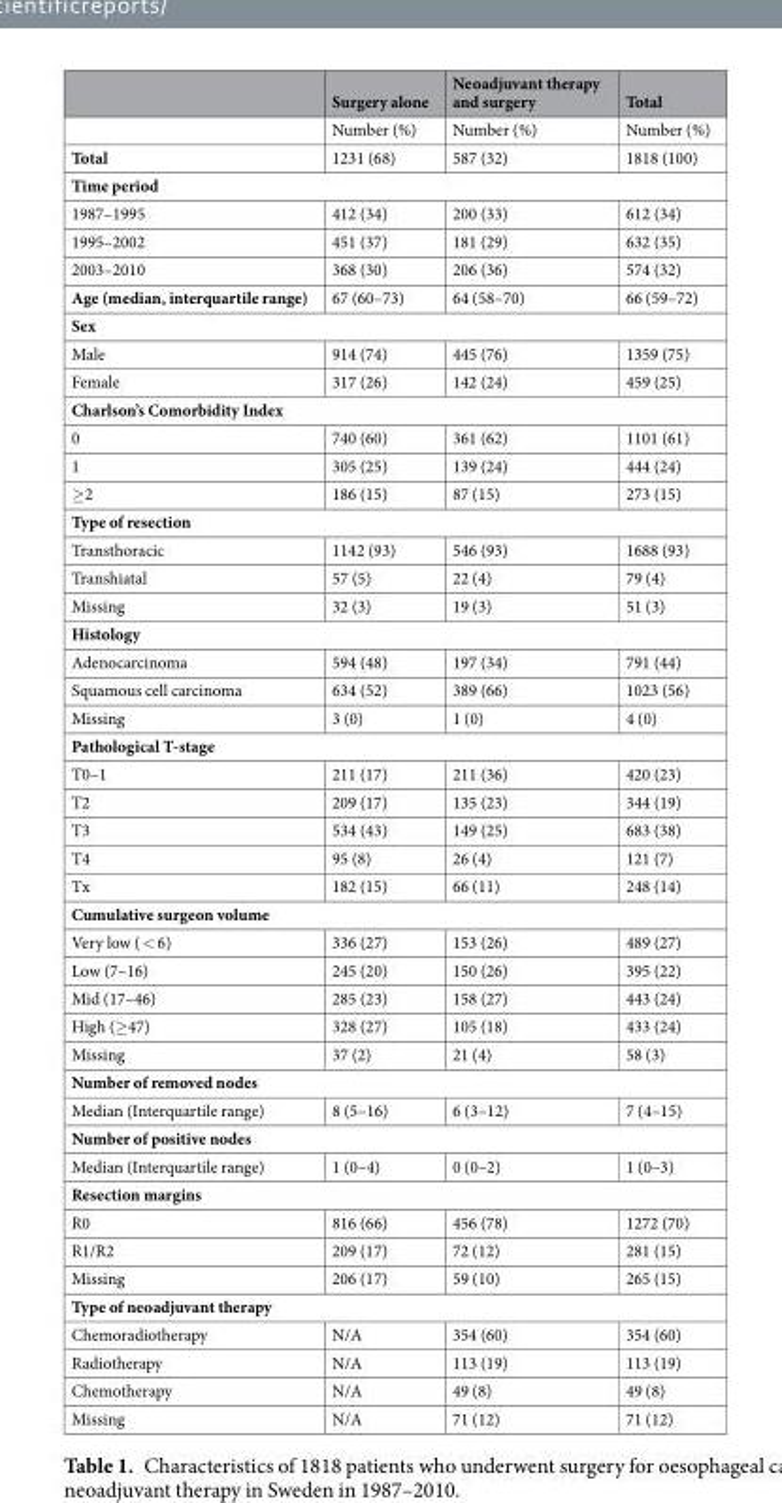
<table><thead><tr><td></td><td>Surgery alone</td><td>Neoadjuvant therapy and surgery</td><td>Total</td></tr></thead><tbody><tr><td></td><td>Number (%)</td><td>Number (%)</td><td>Number (%)</td></tr><tr><td>Total</td><td>1231 (68)</td><td>587 (32)</td><td>1818 (100)</td></tr><tr><td colspan="4">Time period</td></tr><tr><td>1987–1995</td><td>412 (34)</td><td>200 (33)</td><td>612 (34)</td></tr><tr><td>1995–2002</td><td>451 (37)</td><td>181 (29)</td><td>632 (35)</td></tr><tr><td>2003–2010</td><td>368 (30)</td><td>206 (36)</td><td>574 (32)</td></tr><tr><td>Age (median, interquartile range)</td><td>67 (60–73)</td><td>64 (58–70)</td><td>66 (59–72)</td></tr><tr><td colspan="4">Sex</td></tr><tr><td>Male</td><td>914 (74)</td><td>445 (76)</td><td>1359 (75)</td></tr><tr><td>Female</td><td>317 (26)</td><td>142 (24)</td><td>459 (25)</td></tr><tr><td colspan="4">Charlson’s Comorbidity Index</td></tr><tr><td>0</td><td>740 (60)</td><td>361 (62)</td><td>1101 (61)</td></tr><tr><td>1</td><td>305 (25)</td><td>139 (24)</td><td>444 (24)</td></tr><tr><td>≥2</td><td>186 (15)</td><td>87 (15)</td><td>273 (15)</td></tr><tr><td colspan="4">Type of resection</td></tr><tr><td>Transthoracic</td><td>1142 (93)</td><td>546 (93)</td><td>1688 (93)</td></tr><tr><td>Transhiatal</td><td>57 (5)</td><td>22 (4)</td><td>79 (4)</td></tr><tr><td>Missing</td><td>32 (3)</td><td>19 (3)</td><td>51 (3)</td></tr><tr><td colspan="4">Histology</td></tr><tr><td>Adenocarcinoma</td><td>594 (48)</td><td>197 (34)</td><td>791 (44)</td></tr><tr><td>Squamous cell carcinoma</td><td>634 (52)</td><td>389 (66)</td><td>1023 (56)</td></tr><tr><td>Missing</td><td>3 (0)</td><td>1 (0)</td><td>4 (0)</td></tr><tr><td colspan="4">Pathological T-stage</td></tr><tr><td>T0–1</td><td>211 (17)</td><td>211 (36)</td><td>420 (23)</td></tr><tr><td>T2</td><td>209 (17)</td><td>135 (23)</td><td>344 (19)</td></tr><tr><td>T3</td><td>534 (43)</td><td>149 (25)</td><td>683 (38)</td></tr><tr><td>T4</td><td>95 (8)</td><td>26 (4)</td><td>121 (7)</td></tr><tr><td>Tx</td><td>182 (15)</td><td>66 (11)</td><td>248 (14)</td></tr><tr><td colspan="4">Cumulative surgeon volume</td></tr><tr><td>Very low ( &lt; 6)</td><td>336 (27)</td><td>153 (26)</td><td>489 (27)</td></tr><tr><td>Low (7–16)</td><td>245 (20)</td><td>150 (26)</td><td>395 (22)</td></tr><tr><td>Mid (17–46)</td><td>285 (23)</td><td>158 (27)</td><td>443 (24)</td></tr><tr><td>High (≥47)</td><td>328 (27)</td><td>105 (18)</td><td>433 (24)</td></tr><tr><td>Missing</td><td>37 (2)</td><td>21 (4)</td><td>58 (3)</td></tr><tr><td colspan="4">Number of removed nodes</td></tr><tr><td>Median (Interquartile range)</td><td>8 (5–16)</td><td>6 (3–12)</td><td>7 (4–15)</td></tr><tr><td colspan="4">Number of positive nodes</td></tr><tr><td>Median (Interquartile range)</td><td>1 (0–4)</td><td>0 (0–2)</td><td>1 (0–3)</td></tr><tr><td colspan="4">Resection margins</td></tr><tr><td>R0</td><td>816 (66)</td><td>456 (78)</td><td>1272 (70)</td></tr><tr><td>R1/R2</td><td>209 (17)</td><td>72 (12)</td><td>281 (15)</td></tr><tr><td>Missing</td><td>206 (17)</td><td>59 (10)</td><td>265 (15)</td></tr><tr><td colspan="4">Type of neoadjuvant therapy</td></tr><tr><td>Chemoradiotherapy</td><td>N/A</td><td>354 (60)</td><td>354 (60)</td></tr><tr><td>Radiotherapy</td><td>N/A</td><td>113 (19)</td><td>113 (19)</td></tr><tr><td>Chemotherapy</td><td>N/A</td><td>49 (8)</td><td>49 (8)</td></tr><tr><td>Missing</td><td>N/A</td><td>71 (12)</td><td>71 (12)</td></tr></tbody></table>